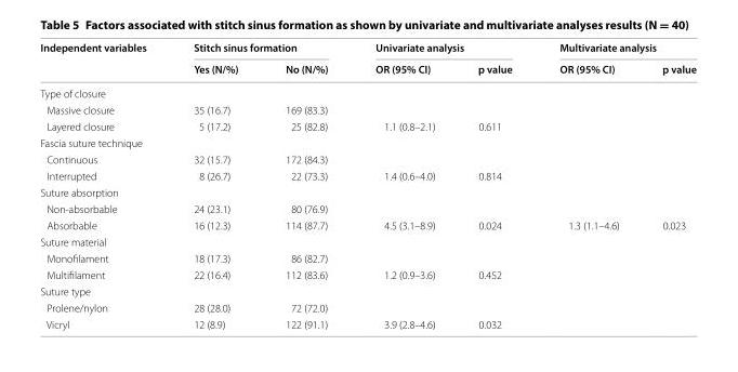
<table><thead><tr><td rowspan="2">Independent variables</td><td colspan="2">Stitch sinus formation</td><td colspan="2">Univariate analysis</td><td colspan="2">Multivariate analysis</td></tr><tr><td>Yes (N/%)</td><td>No (N/%)</td><td>OR (95% CI)</td><td>p value</td><td>OR (95% CI)</td><td>p value</td></tr></thead><tbody><tr><td colspan="7">Type of closure</td></tr><tr><td>Massive closure</td><td>35 (16.7)</td><td>169 (83.3)</td><td></td><td></td><td></td><td></td></tr><tr><td>Layered closure</td><td>5 (17.2)</td><td>25 (82.8)</td><td>1.1 (0.8–2.1)</td><td>0.611</td><td></td><td></td></tr><tr><td colspan="7">Fascia suture technique</td></tr><tr><td>Continuous</td><td>32 (15.7)</td><td>172 (84.3)</td><td></td><td></td><td></td><td></td></tr><tr><td>Interrupted</td><td>8 (26.7)</td><td>22 (73.3)</td><td>1.4 (0.6–4.0)</td><td>0.814</td><td></td><td></td></tr><tr><td colspan="7">Suture absorption</td></tr><tr><td>Non-absorbable</td><td>24 (23.1)</td><td>80 (76.9)</td><td></td><td></td><td></td><td></td></tr><tr><td>Absorbable</td><td>16 (12.3)</td><td>114 (87.7)</td><td>4.5 (3.1–8.9)</td><td>0.024</td><td>1.3 (1.1–4.6)</td><td>0.023</td></tr><tr><td colspan="7">Suture material</td></tr><tr><td>Monofilament</td><td>18 (17.3)</td><td>86 (82.7)</td><td></td><td></td><td></td><td></td></tr><tr><td>Multifilament</td><td>22 (16.4)</td><td>112 (83.6)</td><td>1.2 (0.9–3.6)</td><td>0.452</td><td></td><td></td></tr><tr><td colspan="7">Suture type</td></tr><tr><td>Prolene/nylon</td><td>28 (28.0)</td><td>72 (72.0)</td><td></td><td></td><td></td><td></td></tr><tr><td>Vicryl</td><td>12 (8.9)</td><td>122 (91.1)</td><td>3.9 (2.8–4.6)</td><td>0.032</td><td></td><td></td></tr></tbody></table>